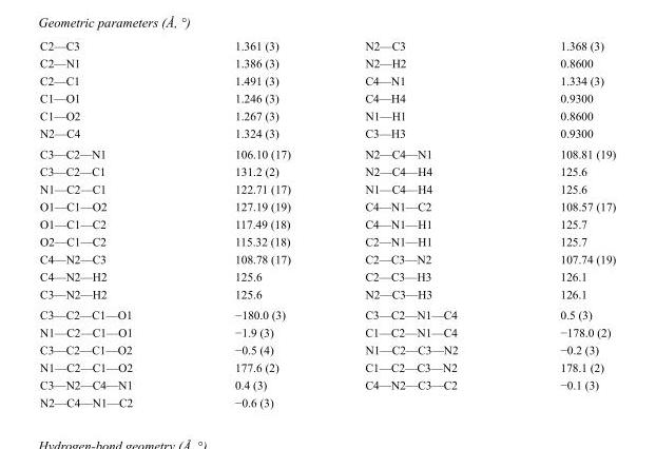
<table><tbody><tr><td>C2—C3</td><td>1.361 (3)</td><td>N2—C3</td><td>1.368 (3)</td></tr><tr><td>C2—N1</td><td>1.386 (3)</td><td>N2—H2</td><td>0.8600</td></tr><tr><td>C2—C1</td><td>1.491 (3)</td><td>C4—N1</td><td>1.334 (3)</td></tr><tr><td>C1—O1</td><td>1.246 (3)</td><td>C4—H4</td><td>0.9300</td></tr><tr><td>C1—O2</td><td>1.267 (3)</td><td>N1—H1</td><td>0.8600</td></tr><tr><td>N2—C4</td><td>1.324 (3)</td><td>C3—H3</td><td>0.9300</td></tr><tr><td>C3—C2—N1</td><td>106.10 (17)</td><td>N2—C4—N1</td><td>108.81 (19)</td></tr><tr><td>C3—C2—C1</td><td>131.2 (2)</td><td>N2—C4—H4</td><td>125.6</td></tr><tr><td>N1—C2—C1</td><td>122.71 (17)</td><td>N1—C4—H4</td><td>125.6</td></tr><tr><td>O1—C1—O2</td><td>127.19 (19)</td><td>C4—N1—C2</td><td>108.57 (17)</td></tr><tr><td>O1—C1—C2</td><td>117.49 (18)</td><td>C4—N1—H1</td><td>125.7</td></tr><tr><td>O2—C1—C2</td><td>115.32 (18)</td><td>C2—N1—H1</td><td>125.7</td></tr><tr><td>C4—N2—C3</td><td>108.78 (17)</td><td>C2—C3—N2</td><td>107.74 (19)</td></tr><tr><td>C4—N2—H2</td><td>125.6</td><td>C2—C3—H3</td><td>126.1</td></tr><tr><td>C3—N2—H2</td><td>125.6</td><td>N2—C3—H3</td><td>126.1</td></tr><tr><td>C3—C2—C1—O1</td><td>−180.0 (3)</td><td>C3—C2—N1—C4</td><td>0.5 (3)</td></tr><tr><td>N1—C2—C1—O1</td><td>−1.9 (3)</td><td>C1—C2—N1—C4</td><td>−178.0 (2)</td></tr><tr><td>C3—C2—C1—O2</td><td>−0.5 (4)</td><td>N1—C2—C3—N2</td><td>−0.2 (3)</td></tr><tr><td>N1—C2—C1—O2</td><td>177.6 (2)</td><td>C1—C2—C3—N2</td><td>178.1 (2)</td></tr><tr><td>C3—N2—C4—N1</td><td>0.4 (3)</td><td>C4—N2—C3—C2</td><td>−0.1 (3)</td></tr><tr><td>N2—C4—N1—C2</td><td>−0.6 (3)</td><td></td><td></td></tr></tbody></table>